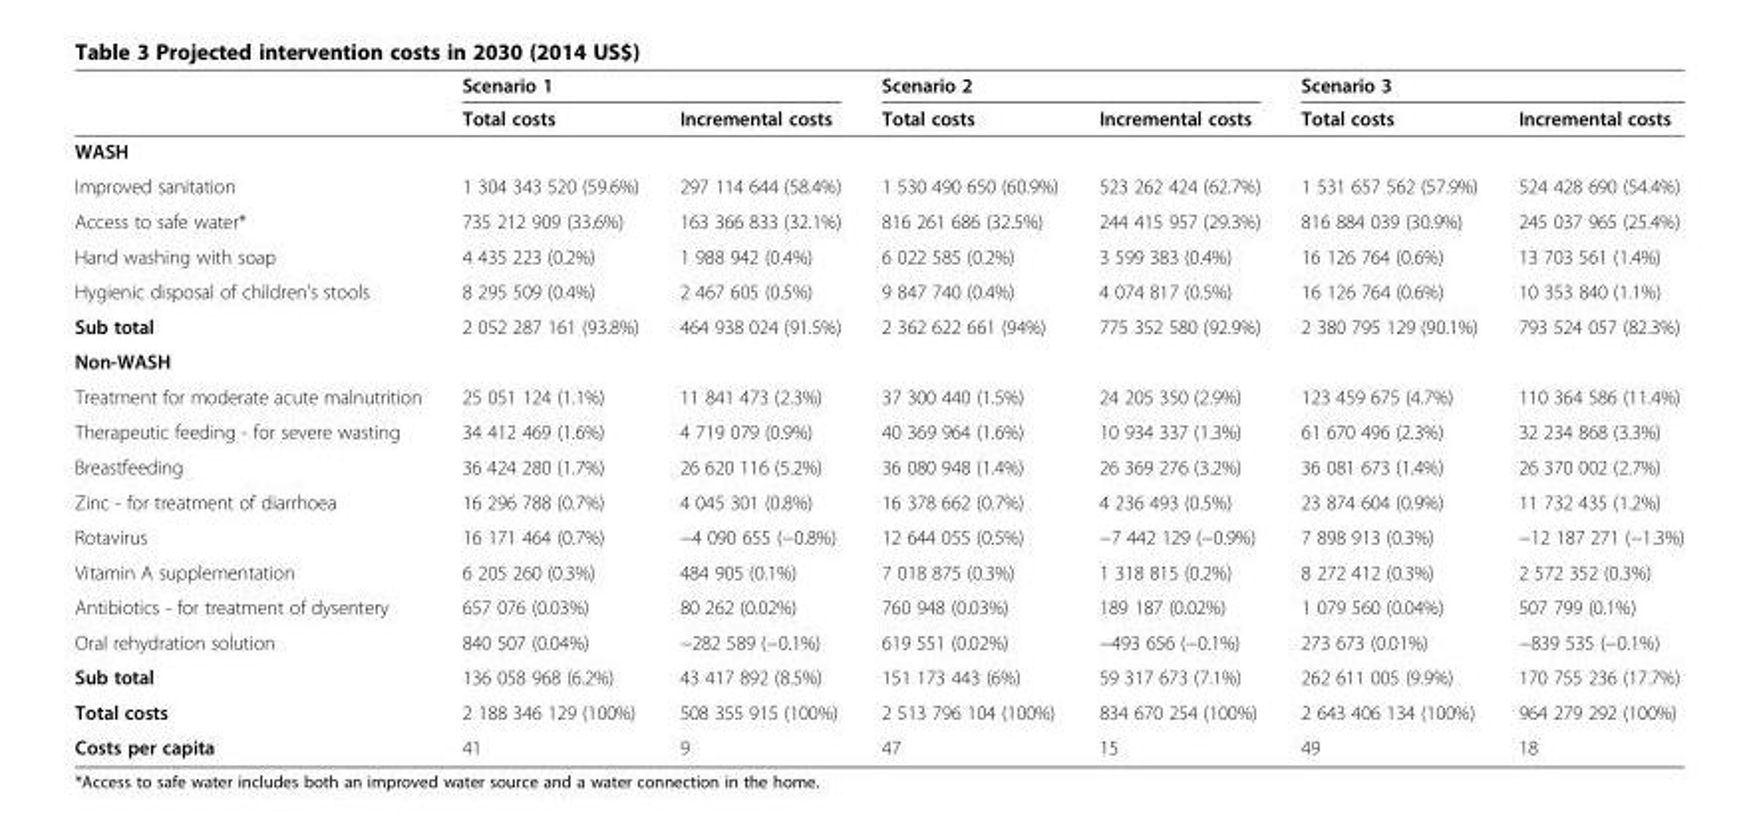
<table><thead><tr><td rowspan="2"></td><td colspan="2">Scenario 1</td><td colspan="2">Scenario 2</td><td colspan="2">Scenario 3</td></tr><tr><td>Total costs</td><td>Incremental costs</td><td>Total costs</td><td>Incremental costs</td><td>Total costs</td><td>Incremental costs</td></tr></thead><tbody><tr><td colspan="7">WASH</td></tr><tr><td>Improved sanitation</td><td>1 304 343 520 (59.6%)</td><td>297 114 644 (58.4%)</td><td>1 530 490 650 (60.9%)</td><td>523 262 424 (62.7%)</td><td>1 531 657 562 (57.9%)</td><td>524 428 690 (54.4%)</td></tr><tr><td>Access to safe water*</td><td>735 212 909 (33.6%)</td><td>163 366 833 (32.1%)</td><td>816 261 686 (32.5%)</td><td>244 415 957 (29.3%)</td><td>816 884 039 (30.9%)</td><td>245 037 965 (25.4%)</td></tr><tr><td>Hand washing with soap</td><td>4 435 223 (0.2%)</td><td>1 988 942 (0.4%)</td><td>6 022 585 (0.2%)</td><td>3 599 383 (0.4%)</td><td>16 126 764 (0.6%)</td><td>13 703 561 (1.4%)</td></tr><tr><td>Hygienic disposal of children&#x27;s stools</td><td>8 295 509 (0.4%)</td><td>2 467 605 (0.5%)</td><td>9 847 740 (0.4%)</td><td>4 074 817 (0.5%)</td><td>16 126 764 (0.6%)</td><td>10 353 840 (1.1%)</td></tr><tr><td>Sub total</td><td>2 052 287 161 (93.8%)</td><td>464 938 024 (91.5%)</td><td>2 362 622 661 (94%)</td><td>775 352 580 (92.9%)</td><td>2 380 795 129 (90.1%)</td><td>793 524 057 (82.3%)</td></tr><tr><td colspan="7">Non-WASH</td></tr><tr><td>Treatment for moderate acute malnutrition</td><td>25 051 124 (1.1%)</td><td>11 841 473 (2.3%)</td><td>37 300 440 (1.5%)</td><td>24 205 350 (2.9%)</td><td>123 459 675 (4.7%)</td><td>110 364 586 (11.4%)</td></tr><tr><td>Therapeutic feeding - for severe wasting</td><td>34 412 469 (1.6%)</td><td>4 719 079 (0.9%)</td><td>40 369 964 (1.6%)</td><td>10 934 337 (1.3%)</td><td>61 670 496 (2.3%)</td><td>32 234 868 (3.3%)</td></tr><tr><td>Breastfeeding</td><td>36 424 280 (1.7%)</td><td>26 620 116 (5.2%)</td><td>36 080 948 (1.4%)</td><td>26 369 276 (3.2%)</td><td>36 081 673 (1.4%)</td><td>26 370 002 (2.7%)</td></tr><tr><td>Zinc - for treatment of diarrhoea</td><td>16 296 788 (0.7%)</td><td>4 045 301 (0.8%)</td><td>16 378 662 (0.7%)</td><td>4 236 493 (0.5%)</td><td>23 874 604 (0.9%)</td><td>11 732 435 (1.2%)</td></tr><tr><td>Rotavirus</td><td>16 171 464 (0.7%)</td><td>−4 090 655 (−0.8%)</td><td>12 644 055 (0.5%)</td><td>−7 442 129 (−0.9%)</td><td>7 898 913 (0.3%)</td><td>−12 187 271 (−1.3%)</td></tr><tr><td>Vitamin A supplementation</td><td>6 205 260 (0.3%)</td><td>484 905 (0.1%)</td><td>7 018 875 (0.3%)</td><td>1 318 815 (0.2%)</td><td>8 272 412 (0.3%)</td><td>2 572 352 (0.3%)</td></tr><tr><td>Antibiotics - for treatment of dysentery</td><td>657 076 (0.03%)</td><td>80 262 (0.02%)</td><td>760 948 (0.03%)</td><td>189 187 (0.02%)</td><td>1 079 560 (0.04%)</td><td>507 799 (0.1%)</td></tr><tr><td>Oral rehydration solution</td><td>840 507 (0.04%)</td><td>−282 589 (−0.1%)</td><td>619 551 (0.02%)</td><td>−493 656 (−0.1%)</td><td>273 673 (0.01%)</td><td>−839 535 (−0.1%)</td></tr><tr><td>Sub total</td><td>136 058 968 (6.2%)</td><td>43 417 892 (8.5%)</td><td>151 173 443 (6%)</td><td>59 317 673 (7.1%)</td><td>262 611 005 (9.9%)</td><td>170 755 236 (17.7%)</td></tr><tr><td>Total costs</td><td>2 188 346 129 (100%)</td><td>508 355 915 (100%)</td><td>2 513 796 104 (100%)</td><td>834 670 254 (100%)</td><td>2 643 406 134 (100%)</td><td>964 279 292 (100%)</td></tr><tr><td>Costs per capita</td><td>41</td><td>9</td><td>47</td><td>15</td><td>49</td><td>18</td></tr></tbody></table>